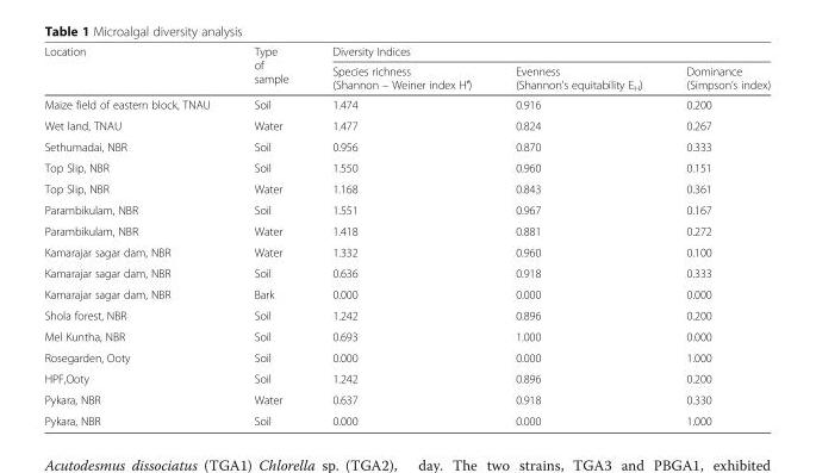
<table><thead><tr><td rowspan="2">Location</td><td rowspan="2">Type of sample</td><td colspan="3">Diversity Indices</td></tr><tr><td>Species richness (Shannon – Weiner index H′)</td><td>Evenness (Shannon’s equitability E<sub>H</sub>)</td><td>Dominance (Simpson’s index)</td></tr></thead><tbody><tr><td>Maize field of eastern block, TNAU</td><td>Soil</td><td>1.474</td><td>0.916</td><td>0.200</td></tr><tr><td>Wet land, TNAU</td><td>Water</td><td>1.477</td><td>0.824</td><td>0.267</td></tr><tr><td>Sethumadai, NBR</td><td>Soil</td><td>0.956</td><td>0.870</td><td>0.333</td></tr><tr><td>Top Slip, NBR</td><td>Soil</td><td>1.550</td><td>0.960</td><td>0.151</td></tr><tr><td>Top Slip, NBR</td><td>Water</td><td>1.168</td><td>0.843</td><td>0.361</td></tr><tr><td>Parambikulam, NBR</td><td>Soil</td><td>1.551</td><td>0.967</td><td>0.167</td></tr><tr><td>Parambikulam, NBR</td><td>Water</td><td>1.418</td><td>0.881</td><td>0.272</td></tr><tr><td>Kamarajar sagar dam, NBR</td><td>Water</td><td>1.332</td><td>0.960</td><td>0.100</td></tr><tr><td>Kamarajar sagar dam, NBR</td><td>Soil</td><td>0.636</td><td>0.918</td><td>0.333</td></tr><tr><td>Kamarajar sagar dam, NBR</td><td>Bark</td><td>0.000</td><td>0.000</td><td>0.000</td></tr><tr><td>Shola forest, NBR</td><td>Soil</td><td>1.242</td><td>0.896</td><td>0.200</td></tr><tr><td>Mel Kuntha, NBR</td><td>Soil</td><td>0.693</td><td>1.000</td><td>0.000</td></tr><tr><td>Rosegarden, Ooty</td><td>Soil</td><td>0.000</td><td>0.000</td><td>1.000</td></tr><tr><td>HPF,Ooty</td><td>Soil</td><td>1.242</td><td>0.896</td><td>0.200</td></tr><tr><td>Pykara, NBR</td><td>Water</td><td>0.637</td><td>0.918</td><td>0.330</td></tr><tr><td>Pykara, NBR</td><td>Soil</td><td>0.000</td><td>0.000</td><td>1.000</td></tr></tbody></table>